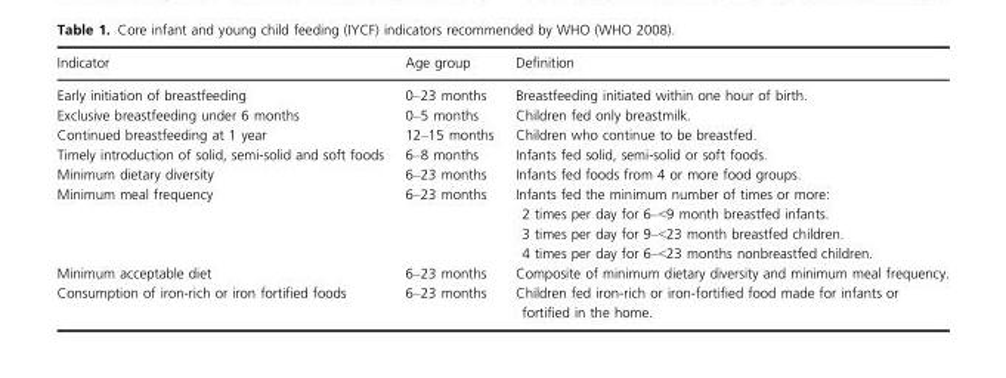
<table><thead><tr><td>Indicator</td><td>Age group</td><td>Definition</td></tr></thead><tbody><tr><td>Early initiation of breastfeeding</td><td>0–23 months</td><td>Breastfeeding initiated within one hour of birth.</td></tr><tr><td>Exclusive breastfeeding under 6 months</td><td>0–5 months</td><td>Children fed only breastmilk.</td></tr><tr><td>Continued breastfeeding at 1 year</td><td>12–15 months</td><td>Children who continue to be breastfed.</td></tr><tr><td>Timely introduction of solid, semi-solid and soft foods</td><td>6–8 months</td><td>Infants fed solid, semi-solid or soft foods.</td></tr><tr><td>Minimum dietary diversity</td><td>6–23 months</td><td>Infants fed foods from 4 or more food groups.</td></tr><tr><td>Minimum meal frequency</td><td>6–23 months</td><td>Infants fed the minimum number of times or more: 2 times per day for 6–&lt;9 month breastfed infants. 3 times per day for 9–&lt;23 month breastfed children. 4 times per day for 6–&lt;23 months nonbreastfed children.</td></tr><tr><td>Minimum acceptable diet</td><td>6–23 months</td><td>Composite of minimum dietary diversity and minimum meal frequency.</td></tr><tr><td>Consumption of iron-rich or iron fortified foods</td><td>6–23 months</td><td>Children fed iron-rich or iron-fortified food made for infants or fortified in the home.</td></tr></tbody></table>